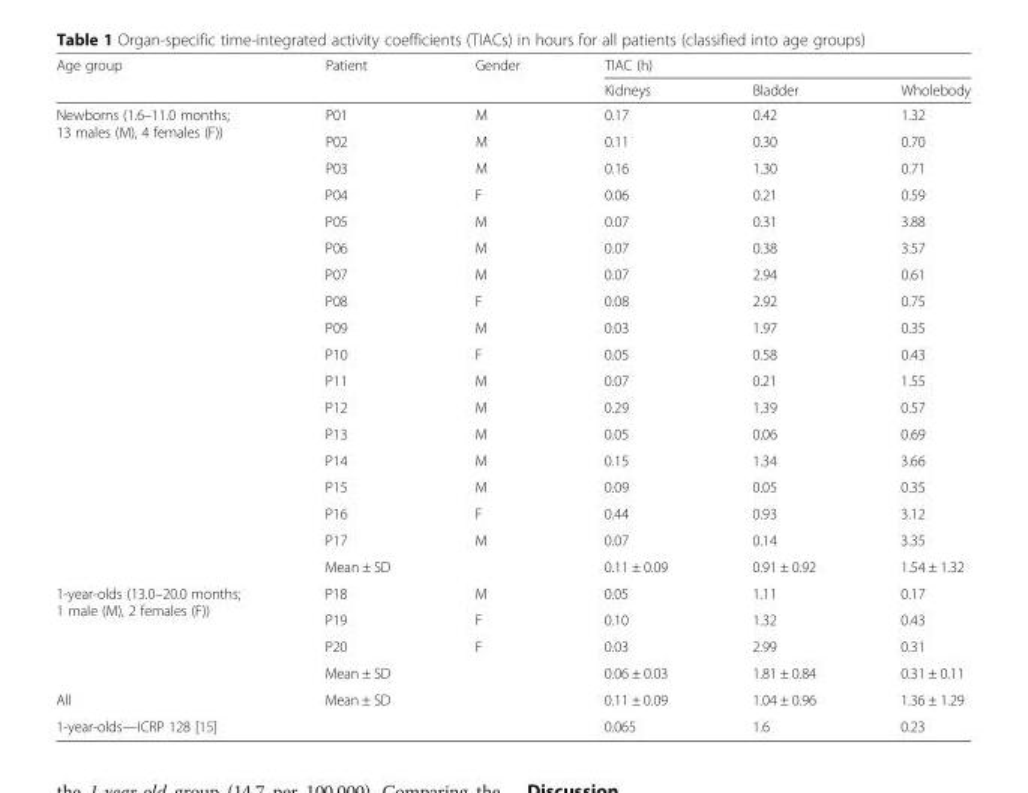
<table><thead><tr><td rowspan="2">Age group</td><td rowspan="2">Patient</td><td rowspan="2">Gender</td><td colspan="3">TIAC (h)</td></tr><tr><td>Kidneys</td><td>Bladder</td><td>Wholebody</td></tr></thead><tbody><tr><td rowspan="18">Newborns (1.6–11.0 months; 13 males (M), 4 females (F))</td><td>P01</td><td>M</td><td>0.17</td><td>0.42</td><td>1.32</td></tr><tr><td>P02</td><td>M</td><td>0.11</td><td>0.30</td><td>0.70</td></tr><tr><td>P03</td><td>M</td><td>0.16</td><td>1.30</td><td>0.71</td></tr><tr><td>P04</td><td>F</td><td>0.06</td><td>0.21</td><td>0.59</td></tr><tr><td>P05</td><td>M</td><td>0.07</td><td>0.31</td><td>3.88</td></tr><tr><td>P06</td><td>M</td><td>0.07</td><td>0.38</td><td>3.57</td></tr><tr><td>P07</td><td>M</td><td>0.07</td><td>2.94</td><td>0.61</td></tr><tr><td>P08</td><td>F</td><td>0.08</td><td>2.92</td><td>0.75</td></tr><tr><td>P09</td><td>M</td><td>0.03</td><td>1.97</td><td>0.35</td></tr><tr><td>P10</td><td>F</td><td>0.05</td><td>0.58</td><td>0.43</td></tr><tr><td>P11</td><td>M</td><td>0.07</td><td>0.21</td><td>1.55</td></tr><tr><td>P12</td><td>M</td><td>0.29</td><td>1.39</td><td>0.57</td></tr><tr><td>P13</td><td>M</td><td>0.05</td><td>0.06</td><td>0.69</td></tr><tr><td>P14</td><td>M</td><td>0.15</td><td>1.34</td><td>3.66</td></tr><tr><td>P15</td><td>M</td><td>0.09</td><td>0.05</td><td>0.35</td></tr><tr><td>P16</td><td>F</td><td>0.44</td><td>0.93</td><td>3.12</td></tr><tr><td>P17</td><td>M</td><td>0.07</td><td>0.14</td><td>3.35</td></tr><tr><td>Mean ± SD</td><td></td><td>0.11 ± 0.09</td><td>0.91 ± 0.92</td><td>1.54 ± 1.32</td></tr><tr><td rowspan="4">1-year-olds (13.0–20.0 months; 1 male (M), 2 females (F))</td><td>P18</td><td>M</td><td>0.05</td><td>1.11</td><td>0.17</td></tr><tr><td>P19</td><td>F</td><td>0.10</td><td>1.32</td><td>0.43</td></tr><tr><td>P20</td><td>F</td><td>0.03</td><td>2.99</td><td>0.31</td></tr><tr><td>Mean ± SD</td><td></td><td>0.06 ± 0.03</td><td>1.81 ± 0.84</td><td>0.31 ± 0.11</td></tr><tr><td>All</td><td>Mean ± SD</td><td></td><td>0.11 ± 0.09</td><td>1.04 ± 0.96</td><td>1.36 ± 1.29</td></tr><tr><td>1-year-olds—ICRP 128 [15]</td><td></td><td></td><td>0.065</td><td>1.6</td><td>0.23</td></tr></tbody></table>